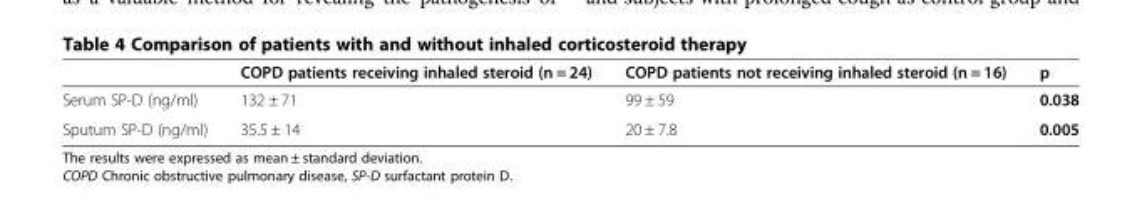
<table><thead><tr><td></td><td>COPD patients receiving inhaled steroid (n = 24)</td><td>COPD patients not receiving inhaled steroid (n = 16)</td><td>p</td></tr></thead><tbody><tr><td>Serum SP-D (ng/ml)</td><td>132 ± 71</td><td>99 ± 59</td><td>0.038</td></tr><tr><td>Sputum SP-D (ng/ml)</td><td>35.5 ± 14</td><td>20 ± 7.8</td><td>0.005</td></tr></tbody></table>